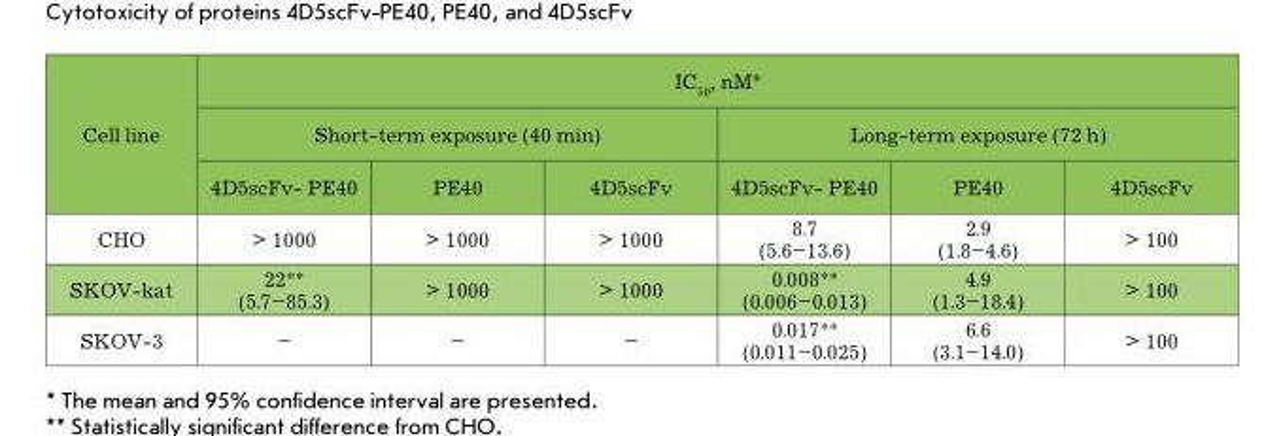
<table><thead><tr><td rowspan="3">Cell line</td><td colspan="6">IC<sub>50</sub>, nM*</td></tr><tr><td colspan="3">Short-term exposure (40 min)</td><td colspan="3">Long-term exposure (72 h)</td></tr><tr><td>4D5scFv- PE40</td><td>PE40</td><td>4D5scFv</td><td>4D5scFv- PE40</td><td>PE40</td><td>4D5scFv</td></tr></thead><tbody><tr><td>CHO</td><td>&gt; 1000</td><td>&gt; 1000</td><td>&gt; 1000</td><td>8.7 (5.6–13.6)</td><td>2.9 (1.8–4.6)</td><td>&gt; 100</td></tr><tr><td>SKOV-kat</td><td>22** (5.7–85.3)</td><td>&gt; 1000</td><td>&gt; 1000</td><td>0.008** (0.006–0.013)</td><td>4.9 (1.3–18.4)</td><td>&gt; 100</td></tr><tr><td>SKOV-3</td><td>–</td><td>–</td><td>–</td><td>0.017** (0.011–0.025)</td><td>6.6 (3.1–14.0)</td><td>&gt; 100</td></tr></tbody></table>